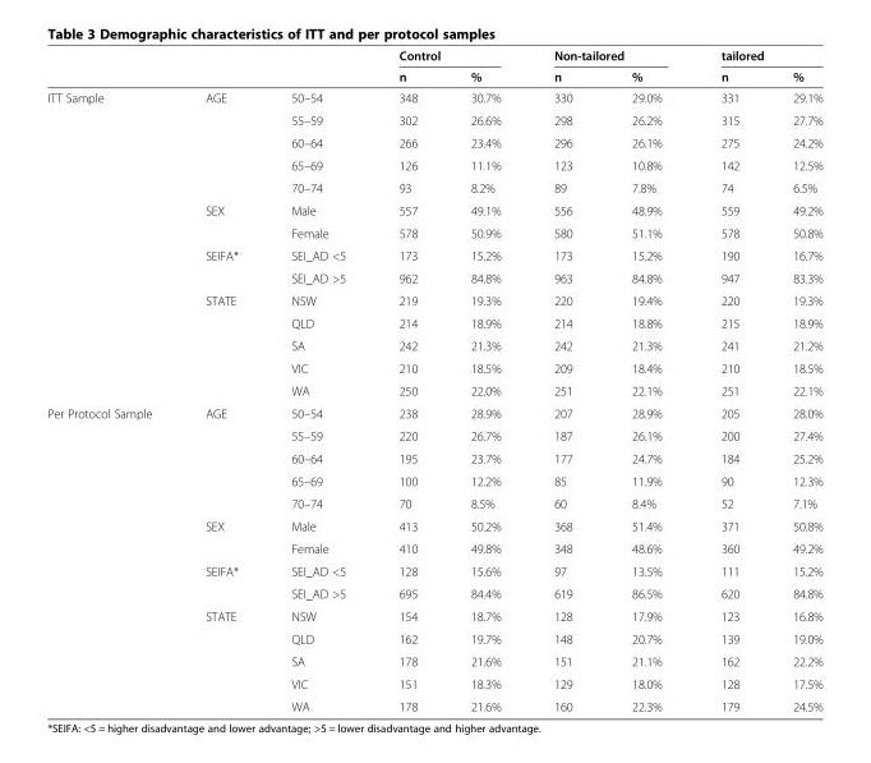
<table><thead><tr><td rowspan="2"></td><td rowspan="2"></td><td rowspan="2"></td><td colspan="2">Control</td><td colspan="2">Non-tailored</td><td colspan="2">tailored</td></tr><tr><td>n</td><td>%</td><td>n</td><td>%</td><td>n</td><td>%</td></tr></thead><tbody><tr><td rowspan="14">ITT Sample</td><td rowspan="5">AGE</td><td>50–54</td><td>348</td><td>30.7%</td><td>330</td><td>29.0%</td><td>331</td><td>29.1%</td></tr><tr><td>55–59</td><td>302</td><td>26.6%</td><td>298</td><td>26.2%</td><td>315</td><td>27.7%</td></tr><tr><td>60–64</td><td>266</td><td>23.4%</td><td>296</td><td>26.1%</td><td>275</td><td>24.2%</td></tr><tr><td>65–69</td><td>126</td><td>11.1%</td><td>123</td><td>10.8%</td><td>142</td><td>12.5%</td></tr><tr><td>70–74</td><td>93</td><td>8.2%</td><td>89</td><td>7.8%</td><td>74</td><td>6.5%</td></tr><tr><td rowspan="2">SEX</td><td>Male</td><td>557</td><td>49.1%</td><td>556</td><td>48.9%</td><td>559</td><td>49.2%</td></tr><tr><td>Female</td><td>578</td><td>50.9%</td><td>580</td><td>51.1%</td><td>578</td><td>50.8%</td></tr><tr><td rowspan="2">SEIFA*</td><td>SEI_AD &lt;5</td><td>173</td><td>15.2%</td><td>173</td><td>15.2%</td><td>190</td><td>16.7%</td></tr><tr><td>SEI_AD &gt;5</td><td>962</td><td>84.8%</td><td>963</td><td>84.8%</td><td>947</td><td>83.3%</td></tr><tr><td rowspan="5">STATE</td><td>NSW</td><td>219</td><td>19.3%</td><td>220</td><td>19.4%</td><td>220</td><td>19.3%</td></tr><tr><td>QLD</td><td>214</td><td>18.9%</td><td>214</td><td>18.8%</td><td>215</td><td>18.9%</td></tr><tr><td>SA</td><td>242</td><td>21.3%</td><td>242</td><td>21.3%</td><td>241</td><td>21.2%</td></tr><tr><td>VIC</td><td>210</td><td>18.5%</td><td>209</td><td>18.4%</td><td>210</td><td>18.5%</td></tr><tr><td>WA</td><td>250</td><td>22.0%</td><td>251</td><td>22.1%</td><td>251</td><td>22.1%</td></tr><tr><td rowspan="14">Per Protocol Sample</td><td rowspan="5">AGE</td><td>50–54</td><td>238</td><td>28.9%</td><td>207</td><td>28.9%</td><td>205</td><td>28.0%</td></tr><tr><td>55–59</td><td>220</td><td>26.7%</td><td>187</td><td>26.1%</td><td>200</td><td>27.4%</td></tr><tr><td>60–64</td><td>195</td><td>23.7%</td><td>177</td><td>24.7%</td><td>184</td><td>25.2%</td></tr><tr><td>65–69</td><td>100</td><td>12.2%</td><td>85</td><td>11.9%</td><td>90</td><td>12.3%</td></tr><tr><td>70–74</td><td>70</td><td>8.5%</td><td>60</td><td>8.4%</td><td>52</td><td>7.1%</td></tr><tr><td rowspan="2">SEX</td><td>Male</td><td>413</td><td>50.2%</td><td>368</td><td>51.4%</td><td>371</td><td>50.8%</td></tr><tr><td>Female</td><td>410</td><td>49.8%</td><td>348</td><td>48.6%</td><td>360</td><td>49.2%</td></tr><tr><td rowspan="2">SEIFA*</td><td>SEI_AD &lt;5</td><td>128</td><td>15.6%</td><td>97</td><td>13.5%</td><td>111</td><td>15.2%</td></tr><tr><td>SEI_AD &gt;5</td><td>695</td><td>84.4%</td><td>619</td><td>86.5%</td><td>620</td><td>84.8%</td></tr><tr><td rowspan="5">STATE</td><td>NSW</td><td>154</td><td>18.7%</td><td>128</td><td>17.9%</td><td>123</td><td>16.8%</td></tr><tr><td>QLD</td><td>162</td><td>19.7%</td><td>148</td><td>20.7%</td><td>139</td><td>19.0%</td></tr><tr><td>SA</td><td>178</td><td>21.6%</td><td>151</td><td>21.1%</td><td>162</td><td>22.2%</td></tr><tr><td>VIC</td><td>151</td><td>18.3%</td><td>129</td><td>18.0%</td><td>128</td><td>17.5%</td></tr><tr><td>WA</td><td>178</td><td>21.6%</td><td>160</td><td>22.3%</td><td>179</td><td>24.5%</td></tr></tbody></table>